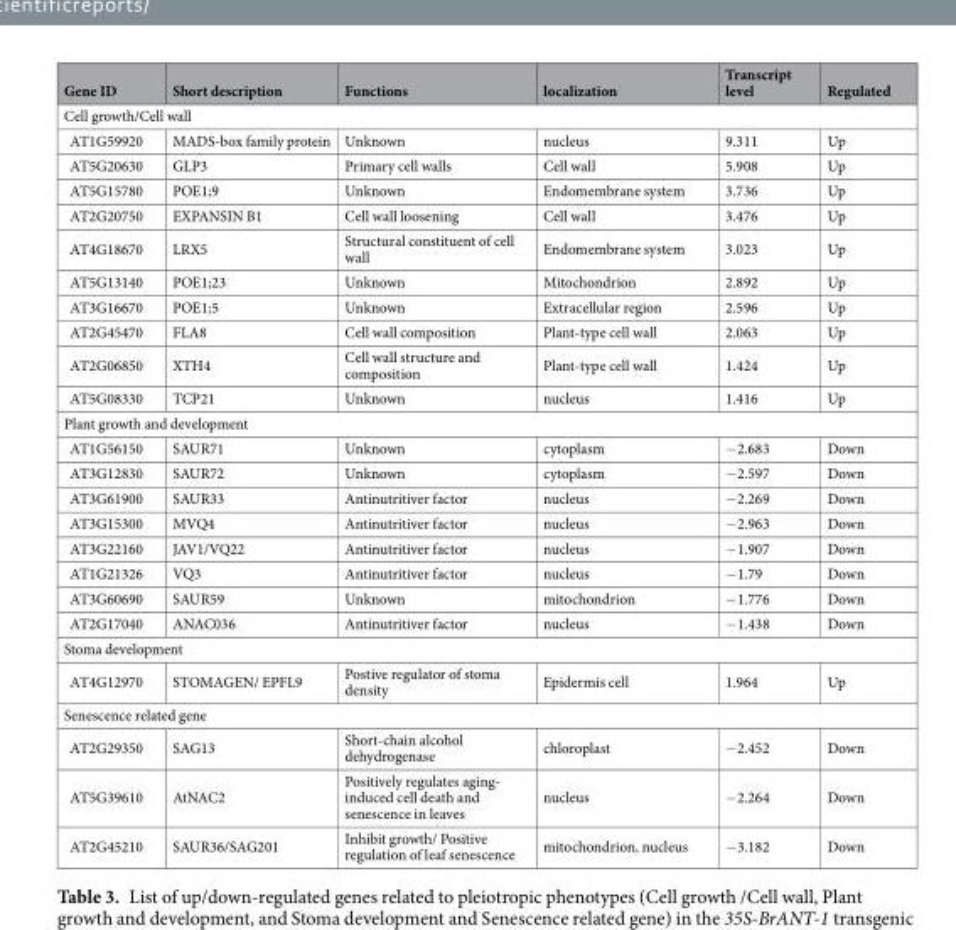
<table><thead><tr><td>Gene ID</td><td>Short description</td><td>Functions</td><td>localization</td><td>Transcript level</td><td>Regulated</td></tr></thead><tbody><tr><td colspan="6">Cell growth/Cell wall</td></tr><tr><td>AT1G59920</td><td>MADS-box family protein</td><td>Unknown</td><td>nucleus</td><td>9.311</td><td>Up</td></tr><tr><td>AT5G20630</td><td>GLP3</td><td>Primary cell walls</td><td>Cell wall</td><td>5.908</td><td>Up</td></tr><tr><td>AT5G15780</td><td>POE1;9</td><td>Unknown</td><td>Endomembrane system</td><td>3.736</td><td>Up</td></tr><tr><td>AT2G20750</td><td>EXPANSIN B1</td><td>Cell wall loosening</td><td>Cell wall</td><td>3.476</td><td>Up</td></tr><tr><td>AT4G18670</td><td>LRX5</td><td>Structural constituent of cell wall</td><td>Endomembrane system</td><td>3.023</td><td>Up</td></tr><tr><td>AT5G13140</td><td>POE1;23</td><td>Unknown</td><td>Mitochondrion</td><td>2.892</td><td>Up</td></tr><tr><td>AT3G16670</td><td>POE1;5</td><td>Unknown</td><td>Extracellular region</td><td>2.596</td><td>Up</td></tr><tr><td>AT2G45470</td><td>FLA8</td><td>Cell wall composition</td><td>Plant-type cell wall</td><td>2.063</td><td>Up</td></tr><tr><td>AT2G06850</td><td>XTH4</td><td>Cell wall structure and composition</td><td>Plant-type cell wall</td><td>1.424</td><td>Up</td></tr><tr><td>AT5G08330</td><td>TCP21</td><td>Unknown</td><td>nucleus</td><td>1.416</td><td>Up</td></tr><tr><td colspan="6">Plant growth and development</td></tr><tr><td>AT1G56150</td><td>SAUR71</td><td>Unknown</td><td>cytoplasm</td><td>−2.683</td><td>Down</td></tr><tr><td>AT3G12830</td><td>SAUR72</td><td>Unknown</td><td>cytoplasm</td><td>−2.597</td><td>Down</td></tr><tr><td>AT3G61900</td><td>SAUR33</td><td>Antinutritiver factor</td><td>nucleus</td><td>−2.269</td><td>Down</td></tr><tr><td>AT3G15300</td><td>MVQ4</td><td>Antinutritiver factor</td><td>nucleus</td><td>−2.963</td><td>Down</td></tr><tr><td>AT3G22160</td><td>JAV1/VQ22</td><td>Antinutritiver factor</td><td>nucleus</td><td>−1.907</td><td>Down</td></tr><tr><td>AT1G21326</td><td>VQ3</td><td>Antinutritiver factor</td><td>nucleus</td><td>−1.79</td><td>Down</td></tr><tr><td>AT3G60690</td><td>SAUR59</td><td>Unknown</td><td>mitochondrion</td><td>−1.776</td><td>Down</td></tr><tr><td>AT2G17040</td><td>ANAC036</td><td>Antinutritiver factor</td><td>nucleus</td><td>−1.438</td><td>Down</td></tr><tr><td colspan="6">Stoma development</td></tr><tr><td>AT4G12970</td><td>STOMAGEN/ EPFL9</td><td>Postive regulator of stoma density</td><td>Epidermis cell</td><td>1.964</td><td>Up</td></tr><tr><td colspan="6">Senescence related gene</td></tr><tr><td>AT2G29350</td><td>SAG13</td><td>Short-chain alcohol dehydrogenase</td><td>chloroplast</td><td>−2.452</td><td>Down</td></tr><tr><td>AT5G39610</td><td>AtNAC2</td><td>Positively regulates aging- induced cell death and senescence in leaves</td><td>nucleus</td><td>−2.264</td><td>Down</td></tr><tr><td>AT2G45210</td><td>SAUR36/SAG201</td><td>Inhibit growth/ Positive regulation of leaf senescence</td><td>mitochondrion, nucleus</td><td>−3.182</td><td>Down</td></tr></tbody></table>